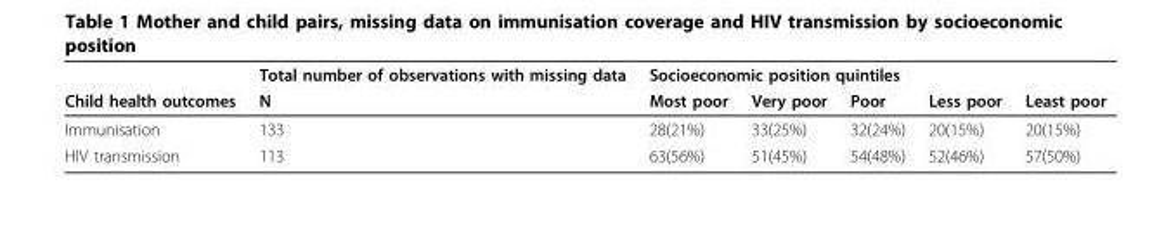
<table><thead><tr><td rowspan="2">Child health outcomes</td><td rowspan="2">Total number of observations with missing data N</td><td colspan="5">Socioeconomic position quintiles</td></tr><tr><td>Most poor</td><td>Very poor</td><td>Poor</td><td>Less poor</td><td>Least poor</td></tr></thead><tbody><tr><td>Immunisation</td><td>133</td><td>28(21%)</td><td>33(25%)</td><td>32(24%)</td><td>20(15%)</td><td>20(15%)</td></tr><tr><td>HIV transmission</td><td>113</td><td>63(56%)</td><td>51(45%)</td><td>54(48%)</td><td>52(46%)</td><td>57(50%)</td></tr></tbody></table>